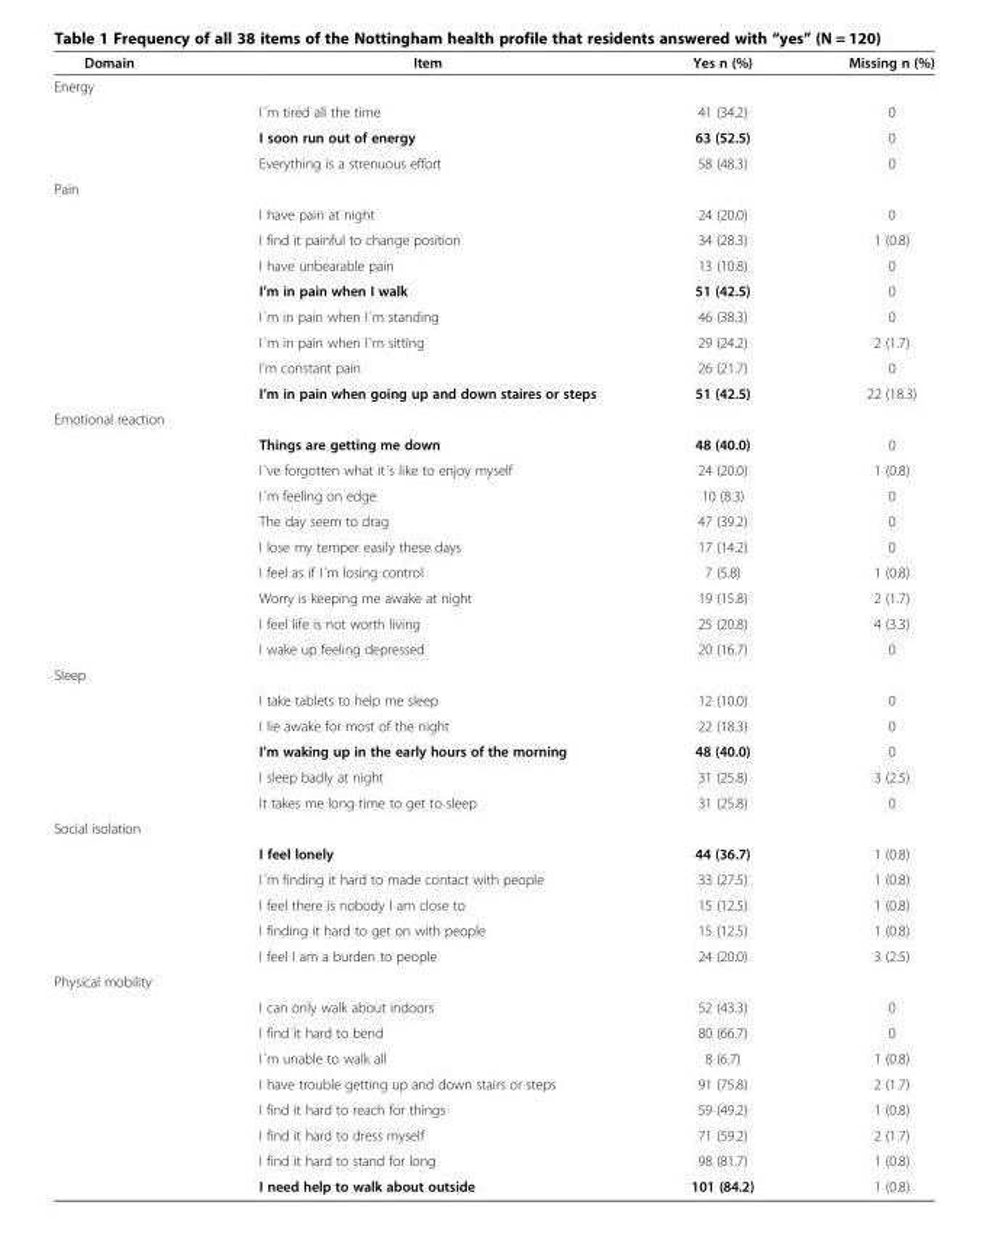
<table><thead><tr><td>Domain</td><td>Item</td><td>Yes n (%)</td><td>Missing n (%)</td></tr></thead><tbody><tr><td colspan="4">Energy</td></tr><tr><td></td><td>I´m tired all the time</td><td>41 (34.2)</td><td>0</td></tr><tr><td></td><td>I soon run out of energy</td><td>63 (52.5)</td><td>0</td></tr><tr><td></td><td>Everything is a strenuous effort</td><td>58 (48.3)</td><td>0</td></tr><tr><td colspan="4">Pain</td></tr><tr><td></td><td>I have pain at night</td><td>24 (20.0)</td><td>0</td></tr><tr><td></td><td>I find it painful to change position</td><td>34 (28.3)</td><td>1 (0.8)</td></tr><tr><td></td><td>I have unbearable pain</td><td>13 (10.8)</td><td>0</td></tr><tr><td></td><td>I’m in pain when I walk</td><td>51 (42.5)</td><td>0</td></tr><tr><td></td><td>I´m in pain when I´m standing</td><td>46 (38.3)</td><td>0</td></tr><tr><td></td><td>I´m in pain when I´m sitting</td><td>29 (24.2)</td><td>2 (1.7)</td></tr><tr><td></td><td>I’m constant pain</td><td>26 (21.7)</td><td>0</td></tr><tr><td></td><td>I’m in pain when going up and down staires or steps</td><td>51 (42.5)</td><td>22 (18.3)</td></tr><tr><td colspan="4">Emotional reaction</td></tr><tr><td></td><td>Things are getting me down</td><td>48 (40.0)</td><td>0</td></tr><tr><td></td><td>I´ve forgotten what it´s like to enjoy myself</td><td>24 (20.0)</td><td>1 (0.8)</td></tr><tr><td></td><td>I´m feeling on edge</td><td>10 (8.3)</td><td>0</td></tr><tr><td></td><td>The day seem to drag</td><td>47 (39.2)</td><td>0</td></tr><tr><td></td><td>I lose my temper easily these days</td><td>17 (14.2)</td><td>0</td></tr><tr><td></td><td>I feel as if I´m losing control</td><td>7 (5.8)</td><td>1 (0.8)</td></tr><tr><td></td><td>Worry is keeping me awake at night</td><td>19 (15.8)</td><td>2 (1.7)</td></tr><tr><td></td><td>I feel life is not worth living</td><td>25 (20.8)</td><td>4 (3.3)</td></tr><tr><td></td><td>I wake up feeling depressed</td><td>20 (16.7)</td><td>0</td></tr><tr><td colspan="4">Sleep</td></tr><tr><td></td><td>I take tablets to help me sleep</td><td>12 (10.0)</td><td>0</td></tr><tr><td></td><td>I lie awake for most of the night</td><td>22 (18.3)</td><td>0</td></tr><tr><td></td><td>I’m waking up in the early hours of the morning</td><td>48 (40.0)</td><td>0</td></tr><tr><td></td><td>I sleep badly at night</td><td>31 (25.8)</td><td>3 (2.5)</td></tr><tr><td></td><td>It takes me long time to get to sleep</td><td>31 (25.8)</td><td>0</td></tr><tr><td colspan="4">Social isolation</td></tr><tr><td></td><td>I feel lonely</td><td>44 (36.7)</td><td>1 (0.8)</td></tr><tr><td></td><td>I´m finding it hard to made contact with people</td><td>33 (27.5)</td><td>1 (0.8)</td></tr><tr><td></td><td>I feel there is nobody I am close to</td><td>15 (12.5)</td><td>1 (0.8)</td></tr><tr><td></td><td>I finding it hard to get on with people</td><td>15 (12.5)</td><td>1 (0.8)</td></tr><tr><td></td><td>I feel I am a burden to people</td><td>24 (20.0)</td><td>3 (2.5)</td></tr><tr><td colspan="4">Physical mobility</td></tr><tr><td></td><td>I can only walk about indoors</td><td>52 (43.3)</td><td>0</td></tr><tr><td></td><td>I find it hard to bend</td><td>80 (66.7)</td><td>0</td></tr><tr><td></td><td>I´m unable to walk all</td><td>8 (6.7)</td><td>1 (0.8)</td></tr><tr><td></td><td>I have trouble getting up and down stairs or steps</td><td>91 (75.8)</td><td>2 (1.7)</td></tr><tr><td></td><td>I find it hard to reach for things</td><td>59 (49.2)</td><td>1 (0.8)</td></tr><tr><td></td><td>I find it hard to dress myself</td><td>71 (59.2)</td><td>2 (1.7)</td></tr><tr><td></td><td>I find it hard to stand for long</td><td>98 (81.7)</td><td>1 (0.8)</td></tr><tr><td></td><td>I need help to walk about outside</td><td>101 (84.2)</td><td>1 (0.8)</td></tr></tbody></table>